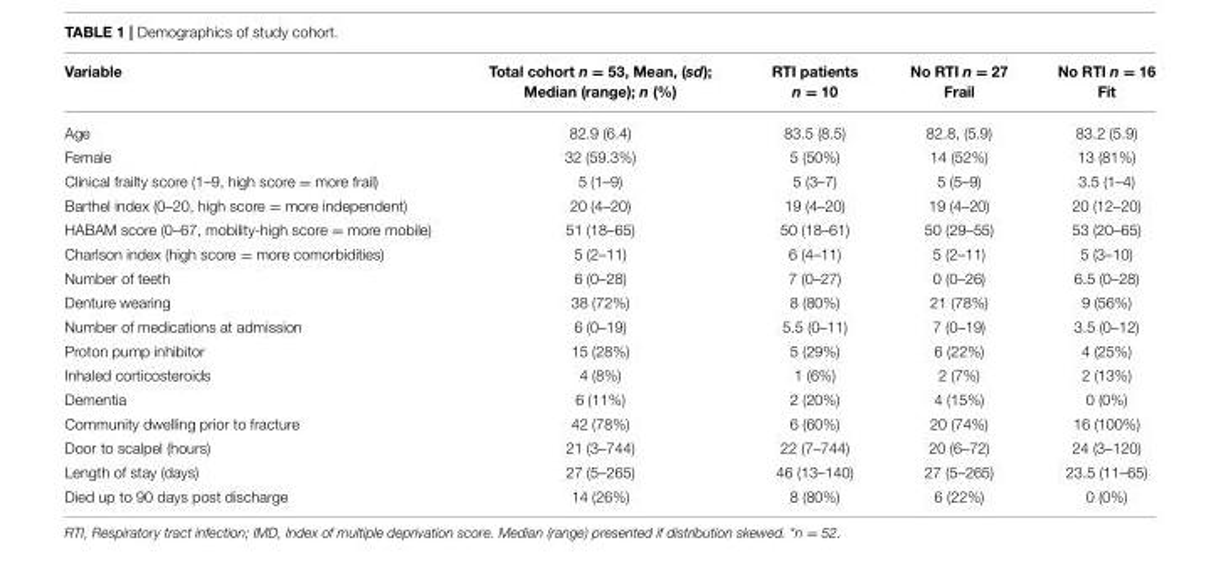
<table><thead><tr><td>Variable</td><td>Total cohort n = 53, Mean, (sd); Median (range); n (%)</td><td>RTI patients n = 10</td><td>No RTI n = 27 Frail</td><td>No RTI n = 16 Fit</td></tr></thead><tbody><tr><td>Age</td><td>82.9 (6.4)</td><td>83.5 (8.5)</td><td>82.8, (5.9)</td><td>83.2 (5.9)</td></tr><tr><td>Female</td><td>32 (59.3%)</td><td>5 (50%)</td><td>14 (52%)</td><td>13 (81%)</td></tr><tr><td>Clinical frailty score (1–9, high score = more frail)</td><td>5 (1–9)</td><td>5 (3–7)</td><td>5 (5–9)</td><td>3.5 (1–4)</td></tr><tr><td>Barthel index (0–20, high score = more independent)</td><td>20 (4–20)</td><td>19 (4–20)</td><td>19 (4–20)</td><td>20 (12–20)</td></tr><tr><td>HABAM score (0–67, mobility-high score = more mobile)</td><td>51 (18–65)</td><td>50 (18–61)</td><td>50 (29–55)</td><td>53 (20–65)</td></tr><tr><td>Charlson index (high score = more comorbidities)</td><td>5 (2–11)</td><td>6 (4–11)</td><td>5 (2–11)</td><td>5 (3–10)</td></tr><tr><td>Number of teeth</td><td>6 (0–28)</td><td>7 (0–27)</td><td>0 (0–26)</td><td>6.5 (0–28)</td></tr><tr><td>Denture wearing</td><td>38 (72%)</td><td>8 (80%)</td><td>21 (78%)</td><td>9 (56%)</td></tr><tr><td>Number of medications at admission</td><td>6 (0–19)</td><td>5.5 (0–11)</td><td>7 (0–19)</td><td>3.5 (0–12)</td></tr><tr><td>Proton pump inhibitor</td><td>15 (28%)</td><td>5 (29%)</td><td>6 (22%)</td><td>4 (25%)</td></tr><tr><td>Inhaled corticosteroids</td><td>4 (8%)</td><td>1 (6%)</td><td>2 (7%)</td><td>2 (13%)</td></tr><tr><td>Dementia</td><td>6 (11%)</td><td>2 (20%)</td><td>4 (15%)</td><td>0 (0%)</td></tr><tr><td>Community dwelling prior to fracture</td><td>42 (78%)</td><td>6 (60%)</td><td>20 (74%)</td><td>16 (100%)</td></tr><tr><td>Door to scalpel (hours)</td><td>21 (3–744)</td><td>22 (7–744)</td><td>20 (6–72)</td><td>24 (3–120)</td></tr><tr><td>Length of stay (days)</td><td>27 (5–265)</td><td>46 (13–140)</td><td>27 (5–265)</td><td>23.5 (11–65)</td></tr><tr><td>Died up to 90 days post discharge</td><td>14 (26%)</td><td>8 (80%)</td><td>6 (22%)</td><td>0 (0%)</td></tr></tbody></table>